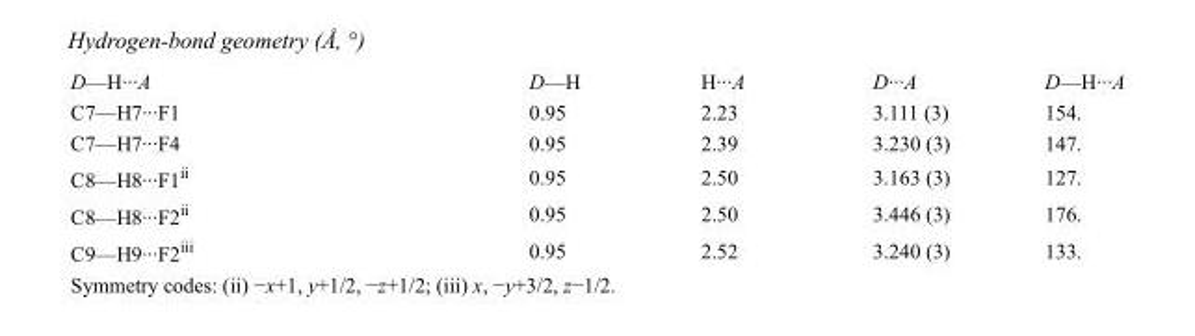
<table><tbody><tr><td>D—H···A</td><td>D—H</td><td>H···A</td><td>D···A</td><td>D—H···A</td></tr><tr><td>C7—H7···F1</td><td>0.95</td><td>2.23</td><td>3.111 (3)</td><td>154.</td></tr><tr><td>C7—H7···F4</td><td>0.95</td><td>2.39</td><td>3.230 (3)</td><td>147.</td></tr><tr><td>C8—H8···F1<sup>ii</sup></td><td>0.95</td><td>2.50</td><td>3.163 (3)</td><td>127.</td></tr><tr><td>C8—H8···F2<sup>ii</sup></td><td>0.95</td><td>2.50</td><td>3.446 (3)</td><td>176.</td></tr><tr><td>C9—H9···F2<sup>iii</sup></td><td>0.95</td><td>2.52</td><td>3.240 (3)</td><td>133.</td></tr></tbody></table>